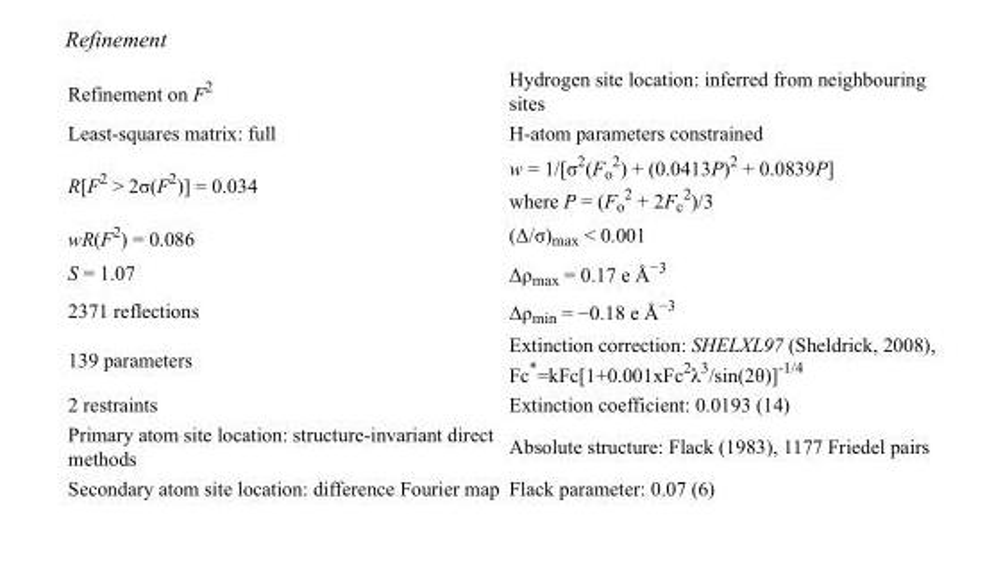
<table><tbody><tr><td>Refinement on F<sup>2</sup></td><td>Hydrogen site location: inferred from neighbouring sites</td></tr><tr><td>Least-squares matrix: full</td><td>H-atom parameters constrained</td></tr><tr><td>R[F<sup>2</sup> &gt; 2σ(F<sup>2</sup>)] = 0.034</td><td>w = 1/[σ<sup>2</sup>(F<sub>o</sub> <sup>2</sup>) + (0.0413P)<sup>2</sup> + 0.0839P] where P = (F<sub>o</sub> <sup>2</sup> + 2F<sub>c</sub> <sup>2</sup>)/3</td></tr><tr><td>wR(F<sup>2</sup>) = 0.086</td><td>(Δ/σ)<sub>max</sub> &lt; 0.001</td></tr><tr><td>S = 1.07</td><td>Δρ<sub>max</sub> = 0.17 e Å<sup>−3</sup></td></tr><tr><td>2371 reflections</td><td>Δρ<sub>min</sub> = −0.18 e Å<sup>−3</sup></td></tr><tr><td>139 parameters</td><td>Extinction correction: SHELXL97 (Sheldrick, 2008), Fc*=kFc[1+0.001xFc<sup>2</sup>λ<sup>3</sup>/sin(2θ)]<sup>-1/4</sup></td></tr><tr><td>2 restraints</td><td>Extinction coefficient: 0.0193 (14)</td></tr><tr><td>Primary atom site location: structure-invariant direct methods</td><td>Absolute structure: Flack (1983), 1177 Friedel pairs</td></tr><tr><td>Secondary atom site location: difference Fourier map</td><td>Flack parameter: 0.07 (6)</td></tr></tbody></table>